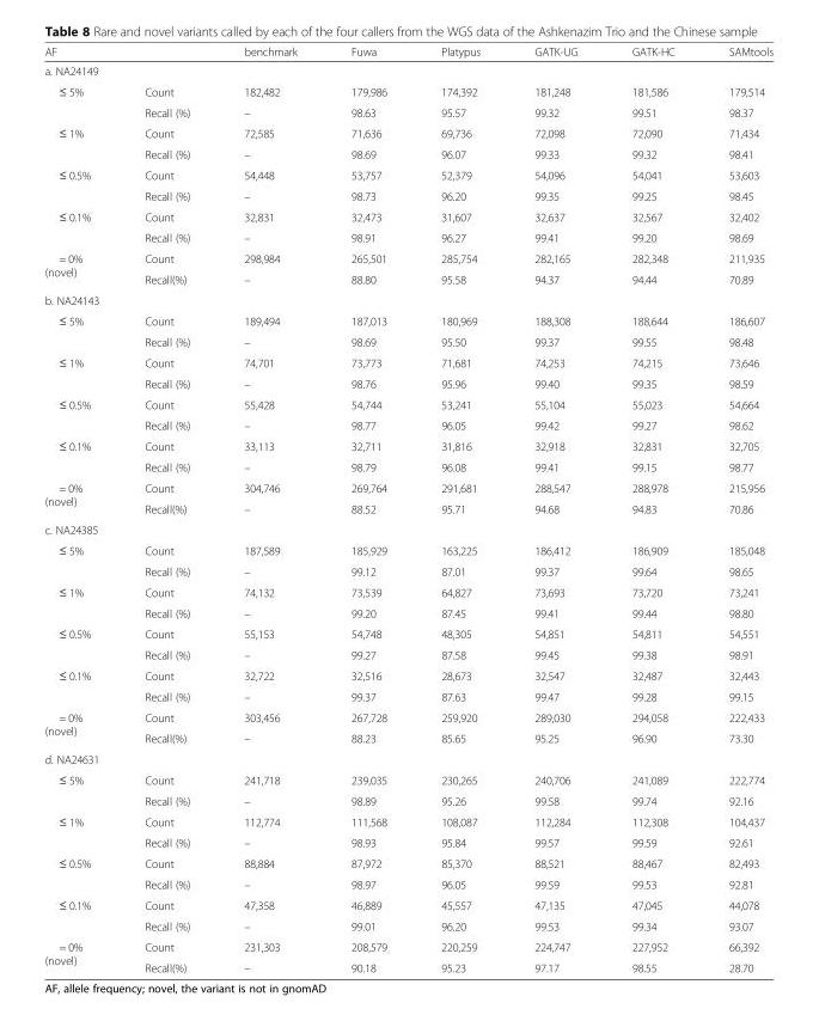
<table><thead><tr><td>AF</td><td></td><td>benchmark</td><td>Fuwa</td><td>Platypus</td><td>GATK-UG</td><td>GATK-HC</td><td>SAMtools</td></tr></thead><tbody><tr><td colspan="8">a. NA24149</td></tr><tr><td rowspan="2">≤ 5%</td><td>Count</td><td>182,482</td><td>179,986</td><td>174,392</td><td>181,248</td><td>181,586</td><td>179,514</td></tr><tr><td>Recall (%)</td><td>–</td><td>98.63</td><td>95.57</td><td>99.32</td><td>99.51</td><td>98.37</td></tr><tr><td rowspan="2">≤ 1%</td><td>Count</td><td>72,585</td><td>71,636</td><td>69,736</td><td>72,098</td><td>72,090</td><td>71,434</td></tr><tr><td>Recall (%)</td><td>–</td><td>98.69</td><td>96.07</td><td>99.33</td><td>99.32</td><td>98.41</td></tr><tr><td rowspan="2">≤ 0.5%</td><td>Count</td><td>54,448</td><td>53,757</td><td>52,379</td><td>54,096</td><td>54,041</td><td>53,603</td></tr><tr><td>Recall (%)</td><td>–</td><td>98.73</td><td>96.20</td><td>99.35</td><td>99.25</td><td>98.45</td></tr><tr><td rowspan="2">≤ 0.1%</td><td>Count</td><td>32,831</td><td>32,473</td><td>31,607</td><td>32,637</td><td>32,567</td><td>32,402</td></tr><tr><td>Recall (%)</td><td>–</td><td>98.91</td><td>96.27</td><td>99.41</td><td>99.20</td><td>98.69</td></tr><tr><td rowspan="2">= 0% (novel)</td><td>Count</td><td>298,984</td><td>265,501</td><td>285,754</td><td>282,165</td><td>282,348</td><td>211,935</td></tr><tr><td>Recall(%)</td><td>–</td><td>88.80</td><td>95.58</td><td>94.37</td><td>94.44</td><td>70.89</td></tr><tr><td colspan="8">b. NA24143</td></tr><tr><td rowspan="2">≤ 5%</td><td>Count</td><td>189,494</td><td>187,013</td><td>180,969</td><td>188,308</td><td>188,644</td><td>186,607</td></tr><tr><td>Recall (%)</td><td>–</td><td>98.69</td><td>95.50</td><td>99.37</td><td>99.55</td><td>98.48</td></tr><tr><td rowspan="2">≤ 1%</td><td>Count</td><td>74,701</td><td>73,773</td><td>71,681</td><td>74,253</td><td>74,215</td><td>73,646</td></tr><tr><td>Recall (%)</td><td>–</td><td>98.76</td><td>95.96</td><td>99.40</td><td>99.35</td><td>98.59</td></tr><tr><td rowspan="2">≤ 0.5%</td><td>Count</td><td>55,428</td><td>54,744</td><td>53,241</td><td>55,104</td><td>55,023</td><td>54,664</td></tr><tr><td>Recall (%)</td><td>–</td><td>98.77</td><td>96.05</td><td>99.42</td><td>99.27</td><td>98.62</td></tr><tr><td rowspan="2">≤ 0.1%</td><td>Count</td><td>33,113</td><td>32,711</td><td>31,816</td><td>32,918</td><td>32,831</td><td>32,705</td></tr><tr><td>Recall (%)</td><td>–</td><td>98.79</td><td>96.08</td><td>99.41</td><td>99.15</td><td>98.77</td></tr><tr><td rowspan="2">= 0% (novel)</td><td>Count</td><td>304,746</td><td>269,764</td><td>291,681</td><td>288,547</td><td>288,978</td><td>215,956</td></tr><tr><td>Recall(%)</td><td>–</td><td>88.52</td><td>95.71</td><td>94.68</td><td>94.83</td><td>70.86</td></tr><tr><td colspan="8">c. NA24385</td></tr><tr><td rowspan="2">≤ 5%</td><td>Count</td><td>187,589</td><td>185,929</td><td>163,225</td><td>186,412</td><td>186,909</td><td>185,048</td></tr><tr><td>Recall (%)</td><td>–</td><td>99.12</td><td>87.01</td><td>99.37</td><td>99.64</td><td>98.65</td></tr><tr><td rowspan="2">≤ 1%</td><td>Count</td><td>74,132</td><td>73,539</td><td>64,827</td><td>73,693</td><td>73,720</td><td>73,241</td></tr><tr><td>Recall (%)</td><td>–</td><td>99.20</td><td>87.45</td><td>99.41</td><td>99.44</td><td>98.80</td></tr><tr><td rowspan="2">≤ 0.5%</td><td>Count</td><td>55,153</td><td>54,748</td><td>48,305</td><td>54,851</td><td>54,811</td><td>54,551</td></tr><tr><td>Recall (%)</td><td>–</td><td>99.27</td><td>87.58</td><td>99.45</td><td>99.38</td><td>98.91</td></tr><tr><td rowspan="2">≤ 0.1%</td><td>Count</td><td>32,722</td><td>32,516</td><td>28,673</td><td>32,547</td><td>32,487</td><td>32,443</td></tr><tr><td>Recall (%)</td><td>–</td><td>99.37</td><td>87.63</td><td>99.47</td><td>99.28</td><td>99.15</td></tr><tr><td rowspan="2">= 0% (novel)</td><td>Count</td><td>303,456</td><td>267,728</td><td>259,920</td><td>289,030</td><td>294,058</td><td>222,433</td></tr><tr><td>Recall(%)</td><td>–</td><td>88.23</td><td>85.65</td><td>95.25</td><td>96.90</td><td>73.30</td></tr><tr><td colspan="8">d. NA24631</td></tr><tr><td rowspan="2">≤ 5%</td><td>Count</td><td>241,718</td><td>239,035</td><td>230,265</td><td>240,706</td><td>241,089</td><td>222,774</td></tr><tr><td>Recall (%)</td><td>–</td><td>98.89</td><td>95.26</td><td>99.58</td><td>99.74</td><td>92.16</td></tr><tr><td rowspan="2">≤ 1%</td><td>Count</td><td>112,774</td><td>111,568</td><td>108,087</td><td>112,284</td><td>112,308</td><td>104,437</td></tr><tr><td>Recall (%)</td><td>–</td><td>98.93</td><td>95.84</td><td>99.57</td><td>99.59</td><td>92.61</td></tr><tr><td rowspan="2">≤ 0.5%</td><td>Count</td><td>88,884</td><td>87,972</td><td>85,370</td><td>88,521</td><td>88,467</td><td>82,493</td></tr><tr><td>Recall (%)</td><td>–</td><td>98.97</td><td>96.05</td><td>99.59</td><td>99.53</td><td>92.81</td></tr><tr><td rowspan="2">≤ 0.1%</td><td>Count</td><td>47,358</td><td>46,889</td><td>45,557</td><td>47,135</td><td>47,045</td><td>44,078</td></tr><tr><td>Recall (%)</td><td>–</td><td>99.01</td><td>96.20</td><td>99.53</td><td>99.34</td><td>93.07</td></tr><tr><td rowspan="2">= 0% (novel)</td><td>Count</td><td>231,303</td><td>208,579</td><td>220,259</td><td>224,747</td><td>227,952</td><td>66,392</td></tr><tr><td>Recall(%)</td><td>–</td><td>90.18</td><td>95.23</td><td>97.17</td><td>98.55</td><td>28.70</td></tr></tbody></table>